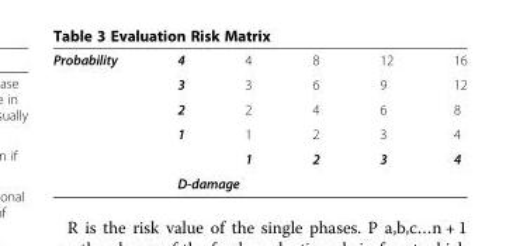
<table><tbody><tr><td rowspan="6">Probability</td><td>4</td><td>4</td><td>8</td><td>12</td><td>16</td></tr><tr><td>3</td><td>3</td><td>6</td><td>9</td><td>12</td></tr><tr><td>2</td><td>2</td><td>4</td><td>6</td><td>8</td></tr><tr><td>1</td><td>1</td><td>2</td><td>3</td><td>4</td></tr><tr><td></td><td>1</td><td>2</td><td>3</td><td>4</td></tr><tr><td colspan="5">D-damage</td></tr></tbody></table>